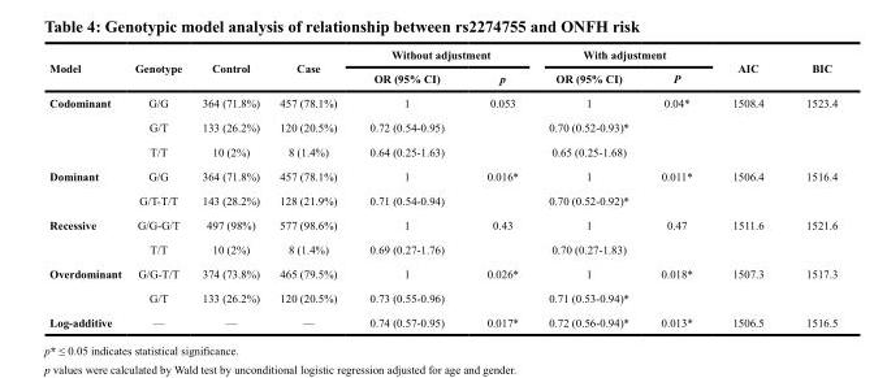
<table><thead><tr><td rowspan="2">Model</td><td rowspan="2">Genotype</td><td rowspan="2">Control</td><td rowspan="2">Case</td><td colspan="2">Without adjustment</td><td colspan="2">With adjustment</td><td rowspan="2">AIC</td><td rowspan="2">BIC</td></tr><tr><td>OR (95% CI)</td><td>p</td><td>OR (95% CI)</td><td>P</td></tr></thead><tbody><tr><td rowspan="3">Codominant</td><td>G/G</td><td>364 (71.8%)</td><td>457 (78.1%)</td><td>1</td><td>0.053</td><td>1</td><td>0.04*</td><td>1508.4</td><td>1523.4</td></tr><tr><td>G/T</td><td>133 (26.2%)</td><td>120 (20.5%)</td><td>0.72 (0.54-0.95)</td><td></td><td>0.70 (0.52-0.93)*</td><td></td><td></td><td></td></tr><tr><td>T/T</td><td>10 (2%)</td><td>8 (1.4%)</td><td>0.64 (0.25-1.63)</td><td></td><td>0.65 (0.25-1.68)</td><td></td><td></td><td></td></tr><tr><td rowspan="2">Dominant</td><td>G/G</td><td>364 (71.8%)</td><td>457 (78.1%)</td><td>1</td><td>0.016*</td><td>1</td><td>0.011*</td><td>1506.4</td><td>1516.4</td></tr><tr><td>G/T-T/T</td><td>143 (28.2%)</td><td>128 (21.9%)</td><td>0.71 (0.54-0.94)</td><td></td><td>0.70 (0.52-0.92)*</td><td></td><td></td><td></td></tr><tr><td rowspan="2">Recessive</td><td>G/G-G/T</td><td>497 (98%)</td><td>577 (98.6%)</td><td>1</td><td>0.43</td><td>1</td><td>0.47</td><td>1511.6</td><td>1521.6</td></tr><tr><td>T/T</td><td>10 (2%)</td><td>8 (1.4%)</td><td>0.69 (0.27-1.76)</td><td></td><td>0.70 (0.27-1.83)</td><td></td><td></td><td></td></tr><tr><td rowspan="2">Overdominant</td><td>G/G-T/T</td><td>374 (73.8%)</td><td>465 (79.5%)</td><td>1</td><td>0.026*</td><td>1</td><td>0.018*</td><td>1507.3</td><td>1517.3</td></tr><tr><td>G/T</td><td>133 (26.2%)</td><td>120 (20.5%)</td><td>0.73 (0.55-0.96)</td><td></td><td>0.71 (0.53-0.94)*</td><td></td><td></td><td></td></tr><tr><td>Log-additive</td><td>—</td><td>—</td><td>—</td><td>0.74 (0.57-0.95)</td><td>0.017*</td><td>0.72 (0.56-0.94)*</td><td>0.013*</td><td>1506.5</td><td>1516.5</td></tr></tbody></table>